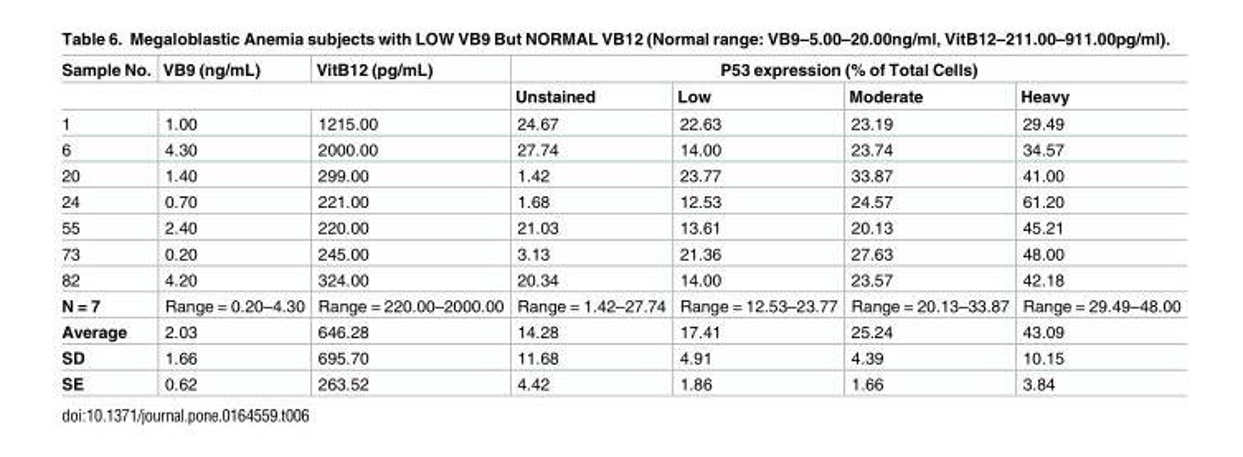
<table><thead><tr><td rowspan="2">Sample No.</td><td rowspan="2">VB9 (ng/mL)</td><td rowspan="2">VitB12 (pg/mL)</td><td colspan="4">P53 expression (% of Total Cells)</td></tr><tr><td>Unstained</td><td>Low</td><td>Moderate</td><td>Heavy</td></tr></thead><tbody><tr><td>1</td><td>1.00</td><td>1215.00</td><td>24.67</td><td>22.63</td><td>23.19</td><td>29.49</td></tr><tr><td>6</td><td>4.30</td><td>2000.00</td><td>27.74</td><td>14.00</td><td>23.74</td><td>34.57</td></tr><tr><td>20</td><td>1.40</td><td>299.00</td><td>1.42</td><td>23.77</td><td>33.87</td><td>41.00</td></tr><tr><td>24</td><td>0.70</td><td>221.00</td><td>1.68</td><td>12.53</td><td>24.57</td><td>61.20</td></tr><tr><td>55</td><td>2.40</td><td>220.00</td><td>21.03</td><td>13.61</td><td>20.13</td><td>45.21</td></tr><tr><td>73</td><td>0.20</td><td>245.00</td><td>3.13</td><td>21.36</td><td>27.63</td><td>48.00</td></tr><tr><td>82</td><td>4.20</td><td>324.00</td><td>20.34</td><td>14.00</td><td>23.57</td><td>42.18</td></tr><tr><td>N = 7</td><td>Range = 0.20–4.30</td><td>Range = 220.00–2000.00</td><td>Range = 1.42–27.74</td><td>Range = 12.53–23.77</td><td>Range = 20.13–33.87</td><td>Range = 29.49–48.00</td></tr><tr><td>Average</td><td>2.03</td><td>646.28</td><td>14.28</td><td>17.41</td><td>25.24</td><td>43.09</td></tr><tr><td>SD</td><td>1.66</td><td>695.70</td><td>11.68</td><td>4.91</td><td>4.39</td><td>10.15</td></tr><tr><td>SE</td><td>0.62</td><td>263.52</td><td>4.42</td><td>1.86</td><td>1.66</td><td>3.84</td></tr></tbody></table>